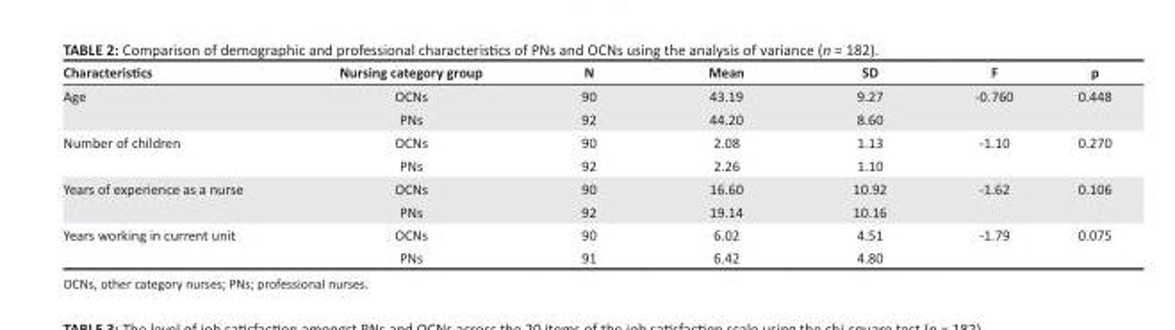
<table><thead><tr><td>Characteristics</td><td>Nursing category group</td><td>N</td><td>Mean</td><td>SD</td><td>F</td><td>p</td></tr></thead><tbody><tr><td rowspan="2">Age</td><td>OCNs</td><td>90</td><td>43.19</td><td>9.27</td><td>-0.760</td><td>0.448</td></tr><tr><td>PNs</td><td>92</td><td>44.20</td><td>8.60</td><td></td><td></td></tr><tr><td rowspan="2">Number of children</td><td>OCNs</td><td>90</td><td>2.08</td><td>1.13</td><td>-1.10</td><td>0.270</td></tr><tr><td>PNs</td><td>92</td><td>2.26</td><td>1.10</td><td></td><td></td></tr><tr><td rowspan="2">Years of experience as a nurse</td><td>OCNs</td><td>90</td><td>16.60</td><td>10.92</td><td>-1.62</td><td>0.106</td></tr><tr><td>PNs</td><td>92</td><td>19.14</td><td>10.16</td><td></td><td></td></tr><tr><td rowspan="2">Years working in current unit</td><td>OCNs</td><td>90</td><td>6.02</td><td>4.51</td><td>-1.79</td><td>0.075</td></tr><tr><td>PNs</td><td>91</td><td>6.42</td><td>4.80</td><td></td><td></td></tr></tbody></table>